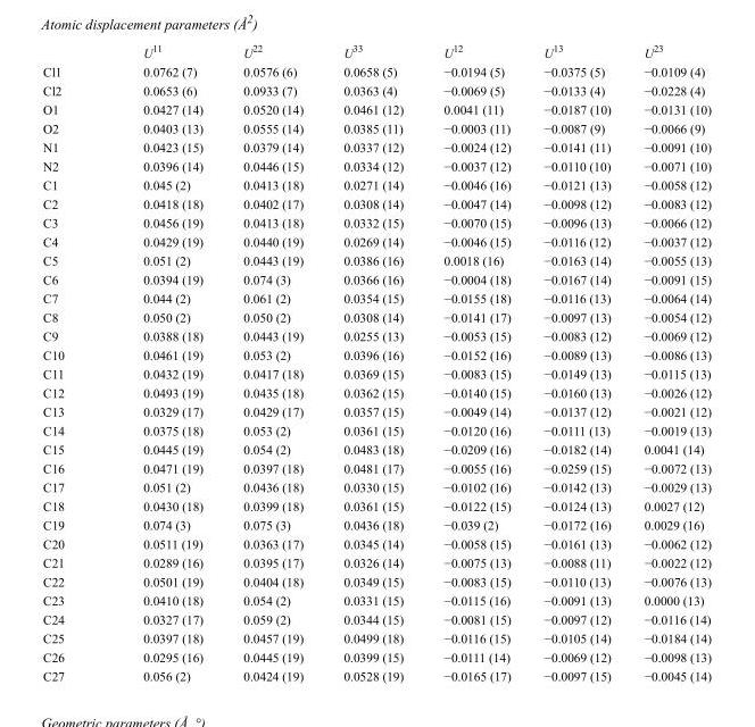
<table><thead><tr><td></td><td>U<sup>11</sup></td><td>U<sup>22</sup></td><td>U<sup>33</sup></td><td>U<sup>12</sup></td><td>U<sup>13</sup></td><td>U<sup>23</sup></td></tr></thead><tbody><tr><td>Cl1</td><td>0.0762 (7)</td><td>0.0576 (6)</td><td>0.0658 (5)</td><td>−0.0194 (5)</td><td>−0.0375 (5)</td><td>−0.0109 (4)</td></tr><tr><td>Cl2</td><td>0.0653 (6)</td><td>0.0933 (7)</td><td>0.0363 (4)</td><td>−0.0069 (5)</td><td>−0.0133 (4)</td><td>−0.0228 (4)</td></tr><tr><td>O1</td><td>0.0427 (14)</td><td>0.0520 (14)</td><td>0.0461 (12)</td><td>0.0041 (11)</td><td>−0.0187 (10)</td><td>−0.0131 (10)</td></tr><tr><td>O2</td><td>0.0403 (13)</td><td>0.0555 (14)</td><td>0.0385 (11)</td><td>−0.0003 (11)</td><td>−0.0087 (9)</td><td>−0.0066 (9)</td></tr><tr><td>N1</td><td>0.0423 (15)</td><td>0.0379 (14)</td><td>0.0337 (12)</td><td>−0.0024 (12)</td><td>−0.0141 (11)</td><td>−0.0091 (10)</td></tr><tr><td>N2</td><td>0.0396 (14)</td><td>0.0446 (15)</td><td>0.0334 (12)</td><td>−0.0037 (12)</td><td>−0.0110 (10)</td><td>−0.0071 (10)</td></tr><tr><td>C1</td><td>0.045 (2)</td><td>0.0413 (18)</td><td>0.0271 (14)</td><td>−0.0046 (16)</td><td>−0.0121 (13)</td><td>−0.0058 (12)</td></tr><tr><td>C2</td><td>0.0418 (18)</td><td>0.0402 (17)</td><td>0.0308 (14)</td><td>−0.0047 (14)</td><td>−0.0098 (12)</td><td>−0.0083 (12)</td></tr><tr><td>C3</td><td>0.0456 (19)</td><td>0.0413 (18)</td><td>0.0332 (15)</td><td>−0.0070 (15)</td><td>−0.0096 (13)</td><td>−0.0066 (12)</td></tr><tr><td>C4</td><td>0.0429 (19)</td><td>0.0440 (19)</td><td>0.0269 (14)</td><td>−0.0046 (15)</td><td>−0.0116 (12)</td><td>−0.0037 (12)</td></tr><tr><td>C5</td><td>0.051 (2)</td><td>0.0443 (19)</td><td>0.0386 (16)</td><td>0.0018 (16)</td><td>−0.0163 (14)</td><td>−0.0055 (13)</td></tr><tr><td>C6</td><td>0.0394 (19)</td><td>0.074 (3)</td><td>0.0366 (16)</td><td>−0.0004 (18)</td><td>−0.0167 (14)</td><td>−0.0091 (15)</td></tr><tr><td>C7</td><td>0.044 (2)</td><td>0.061 (2)</td><td>0.0354 (15)</td><td>−0.0155 (18)</td><td>−0.0116 (13)</td><td>−0.0064 (14)</td></tr><tr><td>C8</td><td>0.050 (2)</td><td>0.050 (2)</td><td>0.0308 (14)</td><td>−0.0141 (17)</td><td>−0.0097 (13)</td><td>−0.0054 (12)</td></tr><tr><td>C9</td><td>0.0388 (18)</td><td>0.0443 (19)</td><td>0.0255 (13)</td><td>−0.0053 (15)</td><td>−0.0083 (12)</td><td>−0.0069 (12)</td></tr><tr><td>C10</td><td>0.0461 (19)</td><td>0.053 (2)</td><td>0.0396 (16)</td><td>−0.0152 (16)</td><td>−0.0089 (13)</td><td>−0.0086 (13)</td></tr><tr><td>C11</td><td>0.0432 (19)</td><td>0.0417 (18)</td><td>0.0369 (15)</td><td>−0.0083 (15)</td><td>−0.0149 (13)</td><td>−0.0115 (13)</td></tr><tr><td>C12</td><td>0.0493 (19)</td><td>0.0435 (18)</td><td>0.0362 (15)</td><td>−0.0140 (15)</td><td>−0.0160 (13)</td><td>−0.0026 (12)</td></tr><tr><td>C13</td><td>0.0329 (17)</td><td>0.0429 (17)</td><td>0.0357 (15)</td><td>−0.0049 (14)</td><td>−0.0137 (12)</td><td>−0.0021 (12)</td></tr><tr><td>C14</td><td>0.0375 (18)</td><td>0.053 (2)</td><td>0.0361 (15)</td><td>−0.0120 (16)</td><td>−0.0111 (13)</td><td>−0.0019 (13)</td></tr><tr><td>C15</td><td>0.0445 (19)</td><td>0.054 (2)</td><td>0.0483 (18)</td><td>−0.0209 (16)</td><td>−0.0182 (14)</td><td>0.0041 (14)</td></tr><tr><td>C16</td><td>0.0471 (19)</td><td>0.0397 (18)</td><td>0.0481 (17)</td><td>−0.0055 (16)</td><td>−0.0259 (15)</td><td>−0.0072 (13)</td></tr><tr><td>C17</td><td>0.051 (2)</td><td>0.0436 (18)</td><td>0.0330 (15)</td><td>−0.0102 (16)</td><td>−0.0142 (13)</td><td>−0.0029 (13)</td></tr><tr><td>C18</td><td>0.0430 (18)</td><td>0.0399 (18)</td><td>0.0361 (15)</td><td>−0.0122 (15)</td><td>−0.0124 (13)</td><td>0.0027 (12)</td></tr><tr><td>C19</td><td>0.074 (3)</td><td>0.075 (3)</td><td>0.0436 (18)</td><td>−0.039 (2)</td><td>−0.0172 (16)</td><td>0.0029 (16)</td></tr><tr><td>C20</td><td>0.0511 (19)</td><td>0.0363 (17)</td><td>0.0345 (14)</td><td>−0.0058 (15)</td><td>−0.0161 (13)</td><td>−0.0062 (12)</td></tr><tr><td>C21</td><td>0.0289 (16)</td><td>0.0395 (17)</td><td>0.0326 (14)</td><td>−0.0075 (13)</td><td>−0.0088 (11)</td><td>−0.0022 (12)</td></tr><tr><td>C22</td><td>0.0501 (19)</td><td>0.0404 (18)</td><td>0.0349 (15)</td><td>−0.0083 (15)</td><td>−0.0110 (13)</td><td>−0.0076 (13)</td></tr><tr><td>C23</td><td>0.0410 (18)</td><td>0.054 (2)</td><td>0.0331 (15)</td><td>−0.0115 (16)</td><td>−0.0091 (13)</td><td>0.0000 (13)</td></tr><tr><td>C24</td><td>0.0327 (17)</td><td>0.059 (2)</td><td>0.0344 (15)</td><td>−0.0081 (15)</td><td>−0.0097 (12)</td><td>−0.0116 (14)</td></tr><tr><td>C25</td><td>0.0397 (18)</td><td>0.0457 (19)</td><td>0.0499 (18)</td><td>−0.0116 (15)</td><td>−0.0105 (14)</td><td>−0.0184 (14)</td></tr><tr><td>C26</td><td>0.0295 (16)</td><td>0.0445 (19)</td><td>0.0399 (15)</td><td>−0.0111 (14)</td><td>−0.0069 (12)</td><td>−0.0098 (13)</td></tr><tr><td>C27</td><td>0.056 (2)</td><td>0.0424 (19)</td><td>0.0528 (19)</td><td>−0.0165 (17)</td><td>−0.0097 (15)</td><td>−0.0045 (14)</td></tr></tbody></table>